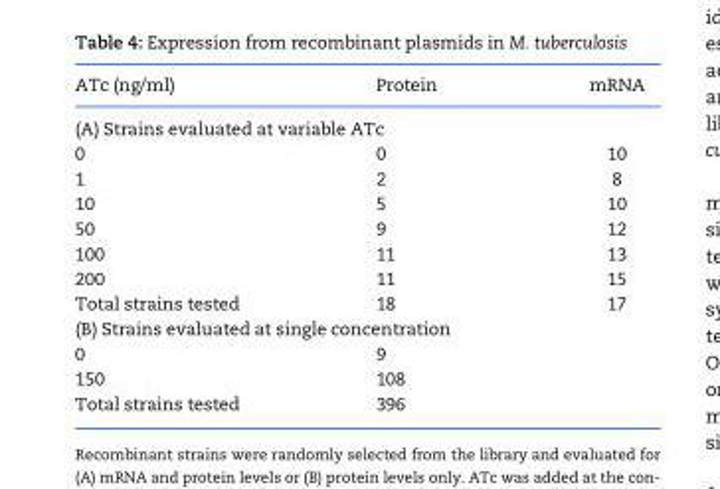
<table><thead><tr><td>ATc (ng/ml)</td><td>Protein</td><td>mRNA</td></tr></thead><tbody><tr><td colspan="3">(A) Strains evaluated at variable ATc</td></tr><tr><td>0</td><td>0</td><td>10</td></tr><tr><td>1</td><td>2</td><td>8</td></tr><tr><td>10</td><td>5</td><td>10</td></tr><tr><td>50</td><td>9</td><td>12</td></tr><tr><td>100</td><td>11</td><td>13</td></tr><tr><td>200</td><td>11</td><td>15</td></tr><tr><td>Total strains tested</td><td>18</td><td>17</td></tr><tr><td colspan="3">(B) Strains evaluated at single concentration</td></tr><tr><td>0</td><td>9</td><td></td></tr><tr><td>150</td><td>108</td><td></td></tr><tr><td>Total strains tested</td><td>396</td><td></td></tr></tbody></table>